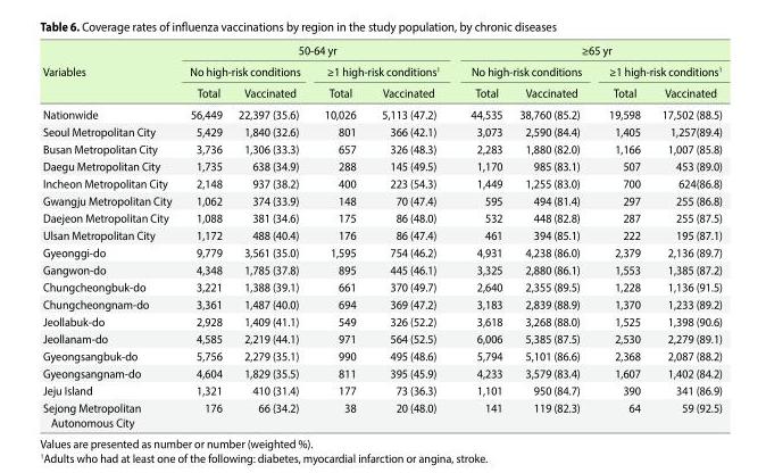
<table><thead><tr><td rowspan="3">Variables</td><td colspan="4">50-64 yr</td><td colspan="4">≥65 yr</td></tr><tr><td colspan="2">No high-risk conditions</td><td colspan="2">≥1 high-risk conditions<sup>1</sup></td><td colspan="2">No high-risk conditions</td><td colspan="2">≥1 high-risk conditions<sup>1</sup></td></tr><tr><td>Total</td><td>Vaccinated</td><td>Total</td><td>Vaccinated</td><td>Total</td><td>Vaccinated</td><td>Total</td><td>Vaccinated</td></tr></thead><tbody><tr><td>Nationwide</td><td>56,449</td><td>22,397 (35.6)</td><td>10,026</td><td>5,113 (47.2)</td><td>44,535</td><td>38,760 (85.2)</td><td>19,598</td><td>17,502 (88.5)</td></tr><tr><td>Seoul Metropolitan City</td><td>5,429</td><td>1,840 (32.6)</td><td>801</td><td>366 (42.1)</td><td>3,073</td><td>2,590 (84.4)</td><td>1,405</td><td>1,257(89.4)</td></tr><tr><td>Busan Metropolitan City</td><td>3,736</td><td>1,306 (33.3)</td><td>657</td><td>326 (48.3)</td><td>2,283</td><td>1,880 (82.0)</td><td>1,166</td><td>1,007 (85.8)</td></tr><tr><td>Daegu Metropolitan City</td><td>1,735</td><td>638 (34.9)</td><td>288</td><td>145 (49.5)</td><td>1,170</td><td>985 (83.1)</td><td>507</td><td>453 (89.0)</td></tr><tr><td>Incheon Metropolitan City</td><td>2,148</td><td>937 (38.2)</td><td>400</td><td>223 (54.3)</td><td>1,449</td><td>1,255 (83.0)</td><td>700</td><td>624(86.8)</td></tr><tr><td>Gwangju Metropolitan City</td><td>1,062</td><td>374 (33.9)</td><td>148</td><td>70 (47.4)</td><td>595</td><td>494 (81.4)</td><td>297</td><td>255 (86.8)</td></tr><tr><td>Daejeon Metropolitan City</td><td>1,088</td><td>381 (34.6)</td><td>175</td><td>86 (48.0)</td><td>532</td><td>448 (82.8)</td><td>287</td><td>255 (87.5)</td></tr><tr><td>Ulsan Metropolitan City</td><td>1,172</td><td>488 (40.4)</td><td>176</td><td>86 (47.4)</td><td>461</td><td>394 (85.1)</td><td>222</td><td>195 (87.1)</td></tr><tr><td>Gyeonggi-do</td><td>9,779</td><td>3,561 (35.0)</td><td>1,595</td><td>754 (46.2)</td><td>4,931</td><td>4,238 (86.0)</td><td>2,379</td><td>2,136 (89.7)</td></tr><tr><td>Gangwon-do</td><td>4,348</td><td>1,785 (37.8)</td><td>895</td><td>445 (46.1)</td><td>3,325</td><td>2,880 (86.1)</td><td>1,553</td><td>1,385 (87.2)</td></tr><tr><td>Chungcheongbuk-do</td><td>3,221</td><td>1,388 (39.1)</td><td>661</td><td>370 (49.7)</td><td>2,640</td><td>2,355 (89.5)</td><td>1,228</td><td>1,136 (91.5)</td></tr><tr><td>Chungcheongnam-do</td><td>3,361</td><td>1,487 (40.0)</td><td>694</td><td>369 (47.2)</td><td>3,183</td><td>2,839 (88.9)</td><td>1,370</td><td>1,233 (89.2)</td></tr><tr><td>Jeollabuk-do</td><td>2,928</td><td>1,409 (41.1)</td><td>549</td><td>326 (52.2)</td><td>3,618</td><td>3,268 (88.0)</td><td>1,525</td><td>1,398 (90.6)</td></tr><tr><td>Jeollanam-do</td><td>4,585</td><td>2,219 (44.1)</td><td>971</td><td>564 (52.5)</td><td>6,006</td><td>5,385 (87.5)</td><td>2,530</td><td>2,279 (89.1)</td></tr><tr><td>Gyeongsangbuk-do</td><td>5,756</td><td>2,279 (35.1)</td><td>990</td><td>495 (48.6)</td><td>5,794</td><td>5,101 (86.6)</td><td>2,368</td><td>2,087 (88.2)</td></tr><tr><td>Gyeongsangnam-do</td><td>4,604</td><td>1,829 (35.5)</td><td>811</td><td>395 (45.9)</td><td>4,233</td><td>3,579 (83.4)</td><td>1,607</td><td>1,402 (84.2)</td></tr><tr><td>Jeju Island</td><td>1,321</td><td>410 (31.4)</td><td>177</td><td>73 (36.3)</td><td>1,101</td><td>950 (84.7)</td><td>390</td><td>341 (86.9)</td></tr><tr><td>Sejong Metropolitan Autonomous City</td><td>176</td><td>66 (34.2)</td><td>38</td><td>20 (48.0)</td><td>141</td><td>119 (82.3)</td><td>64</td><td>59 (92.5)</td></tr></tbody></table>